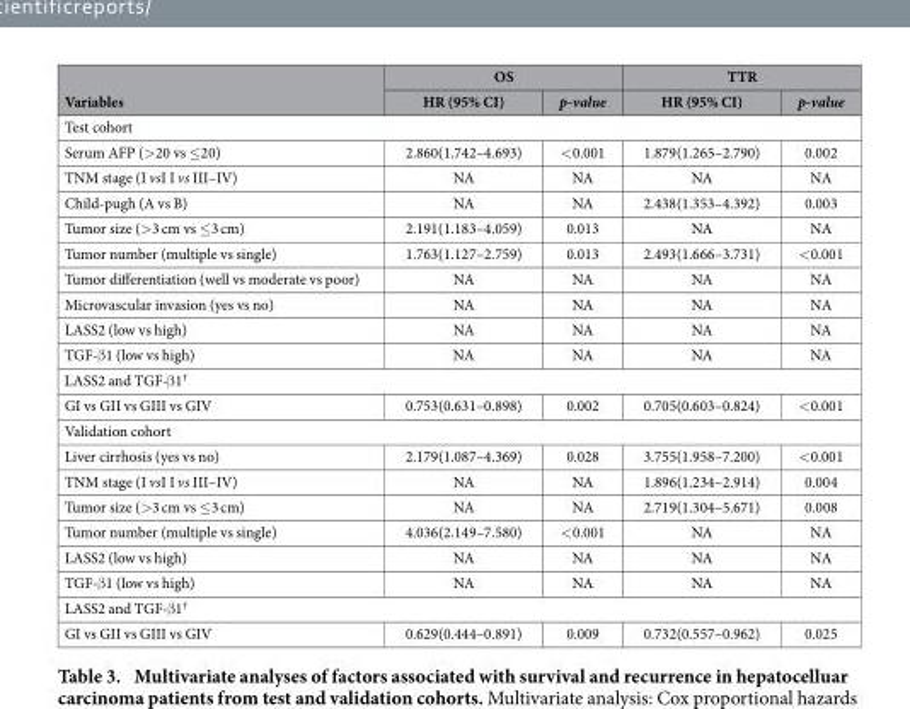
<table><thead><tr><td rowspan="2">Variables</td><td colspan="2">OS</td><td colspan="2">TTR</td></tr><tr><td>HR (95% CI)</td><td>p-value</td><td>HR (95% CI)</td><td>p-value</td></tr></thead><tbody><tr><td colspan="5">Test cohort</td></tr><tr><td>Serum AFP (&gt; 20 vs ≤ 20)</td><td>2.860(1.742–4.693)</td><td>&lt; 0.001</td><td>1.879(1.265–2.790)</td><td>0.002</td></tr><tr><td>TNM stage (I vsI I vs III–IV)</td><td>NA</td><td>NA</td><td>NA</td><td>NA</td></tr><tr><td>Child-pugh (A vs B)</td><td>NA</td><td>NA</td><td>2.438(1.353–4.392)</td><td>0.003</td></tr><tr><td>Tumor size (&gt; 3 cm vs ≤ 3 cm)</td><td>2.191(1.183–4.059)</td><td>0.013</td><td>NA</td><td>NA</td></tr><tr><td>Tumor number (multiple vs single)</td><td>1.763(1.127–2.759)</td><td>0.013</td><td>2.493(1.666–3.731)</td><td>&lt; 0.001</td></tr><tr><td>Tumor differentiation (well vs moderate vs poor)</td><td>NA</td><td>NA</td><td>NA</td><td>NA</td></tr><tr><td>Microvascular invasion (yes vs no)</td><td>NA</td><td>NA</td><td>NA</td><td>NA</td></tr><tr><td>LASS2 (low vs high)</td><td>NA</td><td>NA</td><td>NA</td><td>NA</td></tr><tr><td>TGF-β 1 (low vs high)</td><td>NA</td><td>NA</td><td>NA</td><td>NA</td></tr><tr><td colspan="5">LASS2 and TGF-β 1<sup>†</sup></td></tr><tr><td>GI vs GII vs GIII vs GIV</td><td>0.753(0.631–0.898)</td><td>0.002</td><td>0.705(0.603–0.824)</td><td>&lt; 0.001</td></tr><tr><td colspan="5">Validation cohort</td></tr><tr><td>Liver cirrhosis (yes vs no)</td><td>2.179(1.087–4.369)</td><td>0.028</td><td>3.755(1.958–7.200)</td><td>&lt; 0.001</td></tr><tr><td>TNM stage (I vsI I vs III–IV)</td><td>NA</td><td>NA</td><td>1.896(1.234–2.914)</td><td>0.004</td></tr><tr><td>Tumor size (&gt; 3 cm vs ≤ 3 cm)</td><td>NA</td><td>NA</td><td>2.719(1.304–5.671)</td><td>0.008</td></tr><tr><td>Tumor number (multiple vs single)</td><td>4.036(2.149–7.580)</td><td>&lt; 0.001</td><td>NA</td><td>NA</td></tr><tr><td>LASS2 (low vs high)</td><td>NA</td><td>NA</td><td>NA</td><td>NA</td></tr><tr><td>TGF-β 1 (low vs high)</td><td>NA</td><td>NA</td><td>NA</td><td>NA</td></tr><tr><td colspan="5">LASS2 and TGF-β 1<sup>†</sup></td></tr><tr><td>GI vs GII vs GIII vs GIV</td><td>0.629(0.444–0.891)</td><td>0.009</td><td>0.732(0.557–0.962)</td><td>0.025</td></tr></tbody></table>